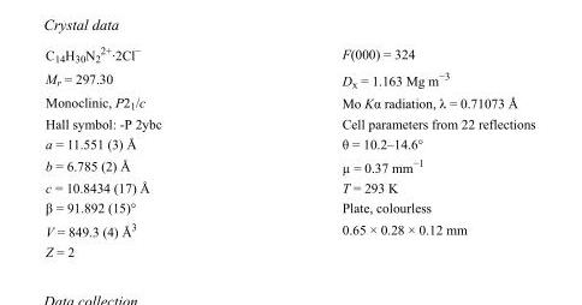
<table><tbody><tr><td>C<sub>14</sub>H<sub>30</sub>N<sub>2</sub> <sup>2+</sup>·2Cl<sup>−</sup></td><td>F(000) = 324</td></tr><tr><td>M<sub>r</sub> = 297.30</td><td>D<sub>x</sub> = 1.163 Mg m<sup>−3</sup></td></tr><tr><td>Monoclinic, P2<sub>1</sub>/c</td><td>Mo Kα radiation, λ = 0.71073 Å</td></tr><tr><td>Hall symbol: -P 2ybc</td><td>Cell parameters from 22 reflections</td></tr><tr><td>a = 11.551 (3) Å</td><td>θ = 10.2–14.6°</td></tr><tr><td>b = 6.785 (2) Å</td><td>µ = 0.37 mm<sup>−1</sup></td></tr><tr><td>c = 10.8434 (17) Å</td><td>T = 293 K</td></tr><tr><td>β = 91.892 (15)°</td><td>Plate, colourless</td></tr><tr><td>V = 849.3 (4) Å<sup>3</sup></td><td>0.65 × 0.28 × 0.12 mm</td></tr><tr><td>Z = 2</td><td></td></tr></tbody></table>